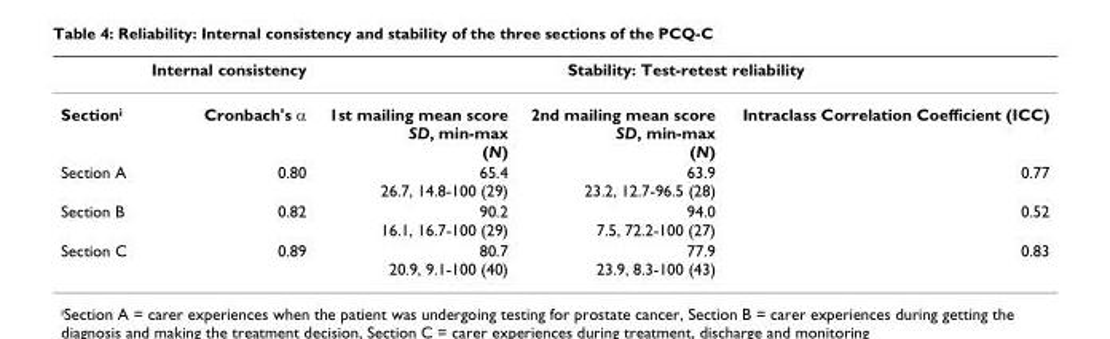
<table><thead><tr><td rowspan="2">Section<sup>i</sup></td><td rowspan="2">Internal consistency Cronbach&#x27;s α</td><td colspan="3">Stability: Test-retest reliability</td></tr><tr><td>1st mailing mean score SD, min-max (N)</td><td>2nd mailing mean score SD, min-max (N)</td><td>Intraclass Correlation Coefficient (ICC)</td></tr></thead><tbody><tr><td>Section A</td><td>0.80</td><td>65.4 26.7, 14.8-100 (29)</td><td>63.9 23.2, 12.7-96.5 (28)</td><td>0.77</td></tr><tr><td>Section B</td><td>0.82</td><td>90.2 16.1, 16.7-100 (29)</td><td>94.0 7.5, 72.2-100 (27)</td><td>0.52</td></tr><tr><td>Section C</td><td>0.89</td><td>80.7 20.9, 9.1-100 (40)</td><td>77.9 23.9, 8.3-100 (43)</td><td>0.83</td></tr></tbody></table>